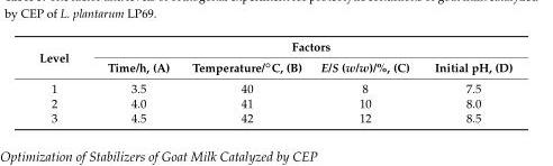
<table><thead><tr><td rowspan="2">Level</td><td colspan="4">Factors</td></tr><tr><td>Time/h, (A)</td><td>Temperature/◦C, (B)</td><td>E/S (w/w)/%, (C)</td><td>Initial pH, (D)</td></tr></thead><tbody><tr><td>1</td><td>3.5</td><td>40</td><td>8</td><td>7.5</td></tr><tr><td>2</td><td>4.0</td><td>41</td><td>10</td><td>8.0</td></tr><tr><td>3</td><td>4.5</td><td>42</td><td>12</td><td>8.5</td></tr></tbody></table>